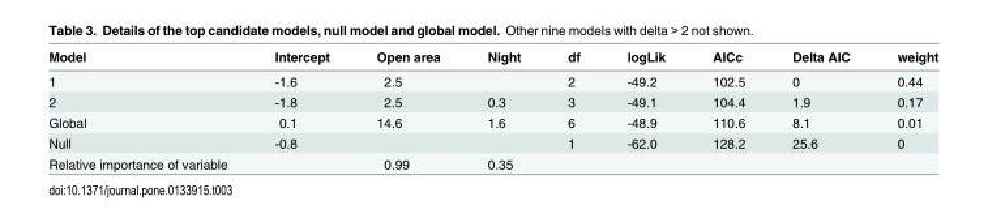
<table><thead><tr><td>Model</td><td>Intercept</td><td>Open area</td><td>Night</td><td>df</td><td>logLik</td><td>AICc</td><td>Delta AIC</td><td>weight</td></tr></thead><tbody><tr><td>1</td><td>-1.6</td><td>2.5</td><td></td><td>2</td><td>-49.2</td><td>102.5</td><td>0</td><td>0.44</td></tr><tr><td>2</td><td>-1.8</td><td>2.5</td><td>0.3</td><td>3</td><td>-49.1</td><td>104.4</td><td>1.9</td><td>0.17</td></tr><tr><td>Global</td><td>0.1</td><td>14.6</td><td>1.6</td><td>6</td><td>-48.9</td><td>110.6</td><td>8.1</td><td>0.01</td></tr><tr><td>Null</td><td>-0.8</td><td></td><td></td><td>1</td><td>-62.0</td><td>128.2</td><td>25.6</td><td>0</td></tr><tr><td>Relative importance of variable</td><td></td><td>0.99</td><td>0.35</td><td></td><td></td><td></td><td></td><td></td></tr></tbody></table>